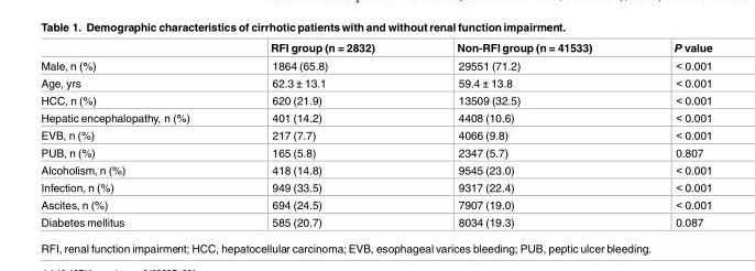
<table><thead><tr><td></td><td>RFI group (n = 2832)</td><td>Non-RFI group (n = 41533)</td><td>P value</td></tr></thead><tbody><tr><td>Male, n (%)</td><td>1864 (65.8)</td><td>29551 (71.2)</td><td>&lt; 0.001</td></tr><tr><td>Age, yrs</td><td>62.3 ± 13.1</td><td>59.4 ± 13.8</td><td>&lt; 0.001</td></tr><tr><td>HCC, n (%)</td><td>620 (21.9)</td><td>13509 (32.5)</td><td>&lt; 0.001</td></tr><tr><td>Hepatic encephalopathy, n (%)</td><td>401 (14.2)</td><td>4408 (10.6)</td><td>&lt; 0.001</td></tr><tr><td>EVB, n (%)</td><td>217 (7.7)</td><td>4066 (9.8)</td><td>&lt; 0.001</td></tr><tr><td>PUB, n (%)</td><td>165 (5.8)</td><td>2347 (5.7)</td><td>0.807</td></tr><tr><td>Alcoholism, n (%)</td><td>418 (14.8)</td><td>9545 (23.0)</td><td>&lt; 0.001</td></tr><tr><td>Infection, n (%)</td><td>949 (33.5)</td><td>9317 (22.4)</td><td>&lt; 0.001</td></tr><tr><td>Ascites, n (%)</td><td>694 (24.5)</td><td>7907 (19.0)</td><td>&lt; 0.001</td></tr><tr><td>Diabetes mellitus</td><td>585 (20.7)</td><td>8034 (19.3)</td><td>0.087</td></tr></tbody></table>